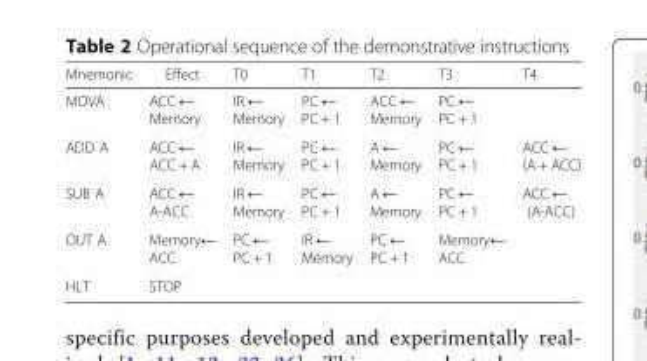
<table><thead><tr><td>Mnemonic</td><td>Effect</td><td>T0</td><td>T1</td><td>T2</td><td>T3</td><td>T4</td></tr></thead><tbody><tr><td>MOVA</td><td>ACC ← Memory</td><td>IR ← Memory</td><td>PC ← PC + 1</td><td>ACC ← Memory</td><td>PC ← PC + 1</td><td></td></tr><tr><td>ADD A</td><td>ACC ← ACC + A</td><td>IR ← Memory</td><td>PC ← PC + 1</td><td>A ← Memory</td><td>PC ← PC + 1</td><td>ACC ← (A + ACC)</td></tr><tr><td>SUB A</td><td>ACC ← A-ACC</td><td>IR ← Memory</td><td>PC ← PC + 1</td><td>A ← Memory</td><td>PC ← PC + 1</td><td>ACC ← (A-ACC)</td></tr><tr><td>OUT A</td><td>Memory← ACC</td><td>PC ← PC + 1</td><td>IR ← Memory</td><td>PC ← PC + 1</td><td>Memory← ACC</td><td></td></tr><tr><td>HLT</td><td colspan="6">STOP</td></tr></tbody></table>